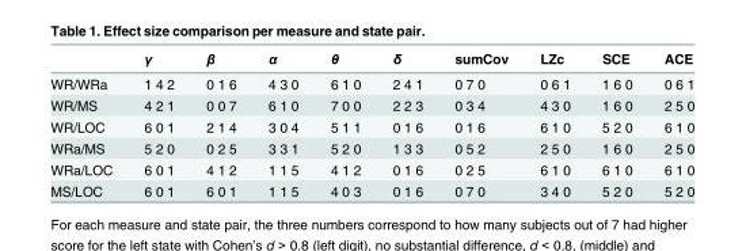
<table><thead><tr><td></td><td>γ</td><td>β</td><td>α</td><td>θ</td><td>δ</td><td>sumCov</td><td>LZc</td><td>SCE</td><td>ACE</td></tr></thead><tbody><tr><td>WR/WRa</td><td>1 4 2</td><td>0 1 6</td><td>4 3 0</td><td>6 1 0</td><td>2 4 1</td><td>0 7 0</td><td>0 6 1</td><td>1 6 0</td><td>0 6 1</td></tr><tr><td>WR/MS</td><td>4 2 1</td><td>0 0 7</td><td>6 1 0</td><td>7 0 0</td><td>2 2 3</td><td>0 3 4</td><td>4 3 0</td><td>1 6 0</td><td>2 5 0</td></tr><tr><td>WR/LOC</td><td>6 0 1</td><td>2 1 4</td><td>3 0 4</td><td>5 1 1</td><td>0 1 6</td><td>0 1 6</td><td>6 1 0</td><td>5 2 0</td><td>6 1 0</td></tr><tr><td>WRa/MS</td><td>5 2 0</td><td>0 2 5</td><td>3 3 1</td><td>5 2 0</td><td>1 3 3</td><td>0 5 2</td><td>2 5 0</td><td>1 6 0</td><td>2 5 0</td></tr><tr><td>WRa/LOC</td><td>6 0 1</td><td>4 1 2</td><td>1 1 5</td><td>4 1 2</td><td>0 1 6</td><td>0 2 5</td><td>6 1 0</td><td>6 1 0</td><td>6 1 0</td></tr><tr><td>MS/LOC</td><td>6 0 1</td><td>6 0 1</td><td>1 1 5</td><td>4 0 3</td><td>0 1 6</td><td>0 7 0</td><td>3 4 0</td><td>5 2 0</td><td>5 2 0</td></tr></tbody></table>